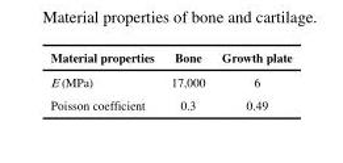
<table><thead><tr><td>Material properties</td><td>Bone</td><td>Growth plate</td></tr></thead><tbody><tr><td>E (MPa)</td><td>17,000</td><td>6</td></tr><tr><td>Poisson coefficient</td><td>0.3</td><td>0.49</td></tr></tbody></table>